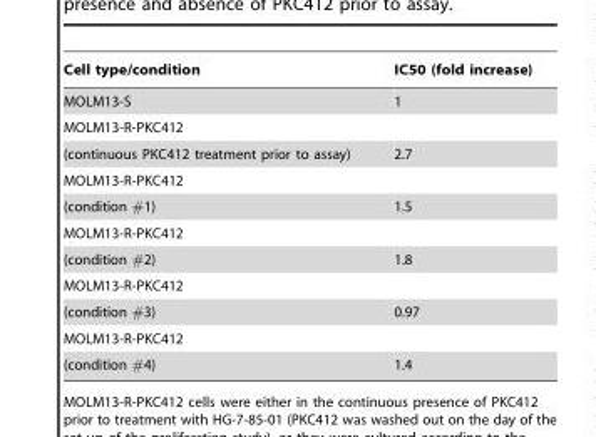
<table><thead><tr><td>Cell type/condition</td><td>IC50 (fold increase)</td></tr></thead><tbody><tr><td>MOLM13-S</td><td>1</td></tr><tr><td colspan="2">MOLM13-R-PKC412</td></tr><tr><td>(continuous PKC412 treatment prior to assay)</td><td>2.7</td></tr><tr><td colspan="2">MOLM13-R-PKC412</td></tr><tr><td>(condition #1)</td><td>1.5</td></tr><tr><td colspan="2">MOLM13-R-PKC412</td></tr><tr><td>(condition #2)</td><td>1.8</td></tr><tr><td colspan="2">MOLM13-R-PKC412</td></tr><tr><td>(condition #3)</td><td>0.97</td></tr><tr><td colspan="2">MOLM13-R-PKC412</td></tr><tr><td>(condition #4)</td><td>1.4</td></tr></tbody></table>